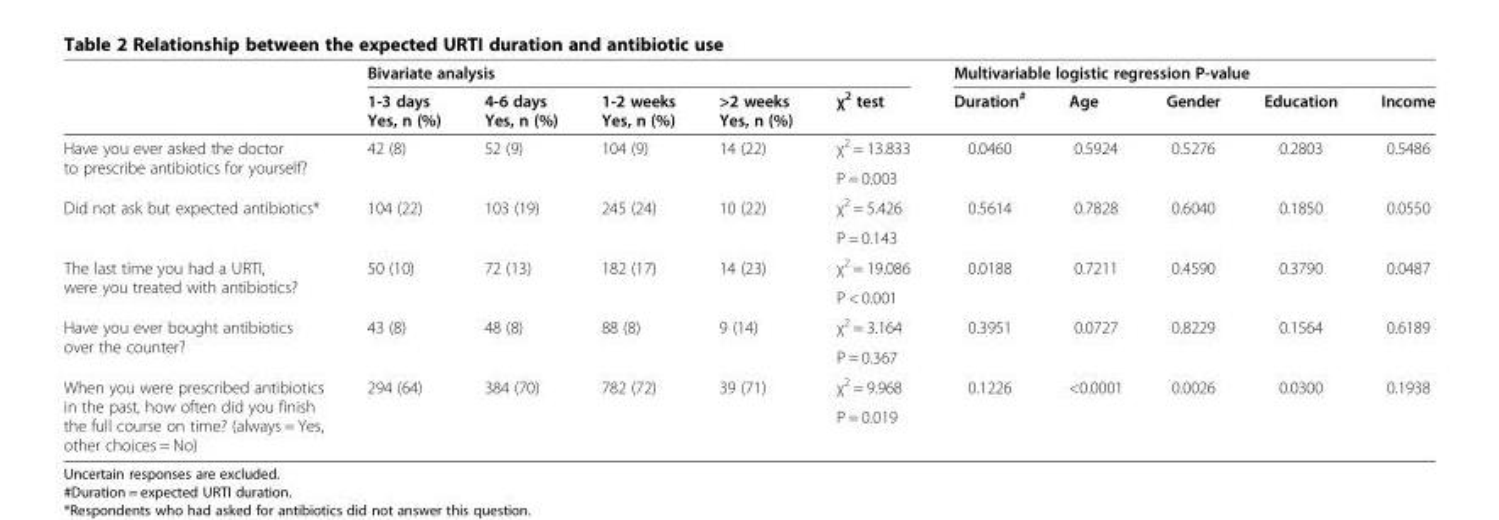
<table><thead><tr><td rowspan="2"></td><td colspan="5">Bivariate analysis</td><td colspan="5">Multivariable logistic regression P-value</td></tr><tr><td>1-3 days Yes, n (%)</td><td>4-6 days Yes, n (%)</td><td>1-2 weeks Yes, n (%)</td><td>&gt;2 weeks Yes, n (%)</td><td>χ<sup>2</sup> test</td><td>Duration<sup>#</sup></td><td>Age</td><td>Gender</td><td>Education</td><td>Income</td></tr></thead><tbody><tr><td rowspan="2">Have you ever asked the doctor to prescribe antibiotics for yourself?</td><td rowspan="2">42 (8)</td><td rowspan="2">52 (9)</td><td rowspan="2">104 (9)</td><td rowspan="2">14 (22)</td><td>χ<sup>2</sup> = 13.833</td><td rowspan="2">0.0460</td><td rowspan="2">0.5924</td><td rowspan="2">0.5276</td><td rowspan="2">0.2803</td><td rowspan="2">0.5486</td></tr><tr><td>P = 0.003</td></tr><tr><td rowspan="2">Did not ask but expected antibiotics*</td><td rowspan="2">104 (22)</td><td rowspan="2">103 (19)</td><td rowspan="2">245 (24)</td><td rowspan="2">10 (22)</td><td>χ<sup>2</sup> = 5.426</td><td rowspan="2">0.5614</td><td rowspan="2">0.7828</td><td rowspan="2">0.6040</td><td rowspan="2">0.1850</td><td rowspan="2">0.0550</td></tr><tr><td>P = 0.143</td></tr><tr><td rowspan="2">The last time you had a URTI, were you treated with antibiotics?</td><td rowspan="2">50 (10)</td><td rowspan="2">72 (13)</td><td rowspan="2">182 (17)</td><td rowspan="2">14 (23)</td><td>χ<sup>2</sup> = 19.086</td><td rowspan="2">0.0188</td><td rowspan="2">0.7211</td><td rowspan="2">0.4590</td><td rowspan="2">0.3790</td><td rowspan="2">0.0487</td></tr><tr><td>P &lt; 0.001</td></tr><tr><td rowspan="2">Have you ever bought antibiotics over the counter?</td><td rowspan="2">43 (8)</td><td rowspan="2">48 (8)</td><td rowspan="2">88 (8)</td><td rowspan="2">9 (14)</td><td>χ<sup>2</sup> = 3.164</td><td rowspan="2">0.3951</td><td rowspan="2">0.0727</td><td rowspan="2">0.8229</td><td rowspan="2">0.1564</td><td rowspan="2">0.6189</td></tr><tr><td>P = 0.367</td></tr><tr><td rowspan="2">When you were prescribed antibiotics in the past, how often did you finish the full course on time? (always = Yes, other choices = No)</td><td rowspan="2">294 (64)</td><td rowspan="2">384 (70)</td><td rowspan="2">782 (72)</td><td rowspan="2">39 (71)</td><td>χ<sup>2</sup> = 9.968</td><td rowspan="2">0.1226</td><td rowspan="2">&lt;0.0001</td><td rowspan="2">0.0026</td><td rowspan="2">0.0300</td><td rowspan="2">0.1938</td></tr><tr><td>P = 0.019</td></tr></tbody></table>